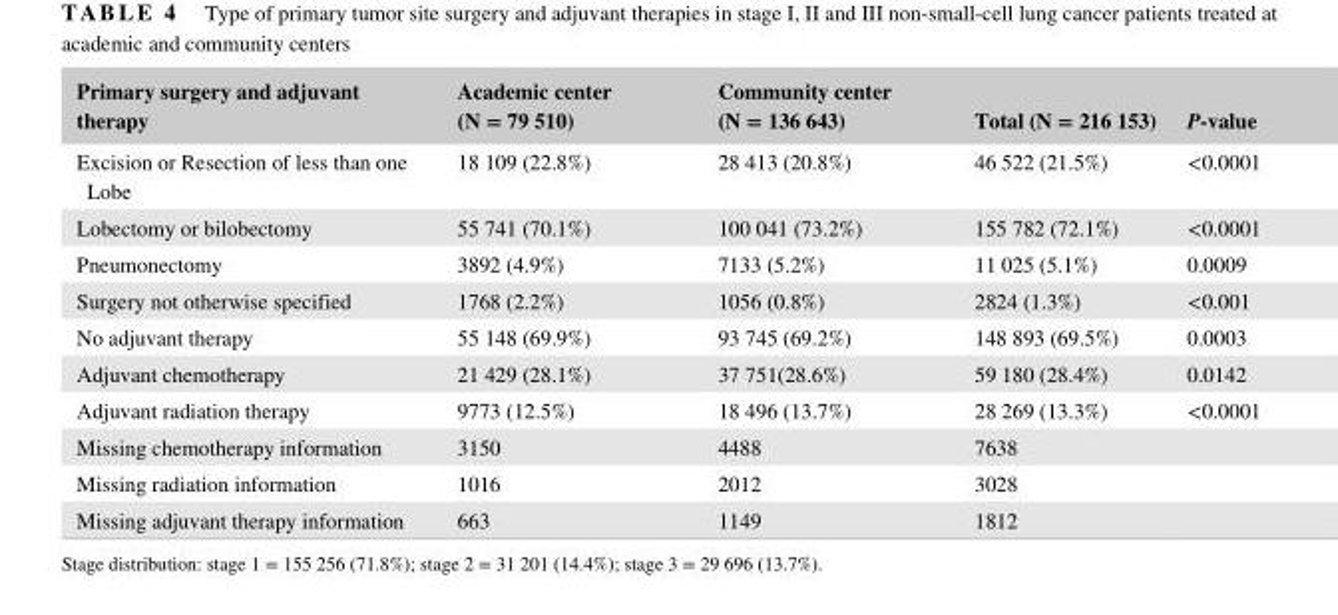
<table><thead><tr><td>Primary surgery and adjuvant therapy</td><td>Academic center (N = 79 510)</td><td>Community center (N = 136 643)</td><td>Total (N = 216 153)</td><td>P- value</td></tr></thead><tbody><tr><td>Excision or Resection of less than one Lobe</td><td>18 109 (22.8%)</td><td>28 413 (20.8%)</td><td>46 522 (21.5%)</td><td>&lt;0.0001</td></tr><tr><td>Lobectomy or bilobectomy</td><td>55 741 (70.1%)</td><td>100 041 (73.2%)</td><td>155 782 (72.1%)</td><td>&lt;0.0001</td></tr><tr><td>Pneumonectomy</td><td>3892 (4.9%)</td><td>7133 (5.2%)</td><td>11 025 (5.1%)</td><td>0.0009</td></tr><tr><td>Surgery not otherwise specified</td><td>1768 (2.2%)</td><td>1056 (0.8%)</td><td>2824 (1.3%)</td><td>&lt;0.001</td></tr><tr><td>No adjuvant therapy</td><td>55 148 (69.9%)</td><td>93 745 (69.2%)</td><td>148 893 (69.5%)</td><td>0.0003</td></tr><tr><td>Adjuvant chemotherapy</td><td>21 429 (28.1%)</td><td>37 751(28.6%)</td><td>59 180 (28.4%)</td><td>0.0142</td></tr><tr><td>Adjuvant radiation therapy</td><td>9773 (12.5%)</td><td>18 496 (13.7%)</td><td>28 269 (13.3%)</td><td>&lt;0.0001</td></tr><tr><td>Missing chemotherapy information</td><td>3150</td><td>4488</td><td>7638</td><td></td></tr><tr><td>Missing radiation information</td><td>1016</td><td>2012</td><td>3028</td><td></td></tr><tr><td>Missing adjuvant therapy information</td><td>663</td><td>1149</td><td>1812</td><td></td></tr></tbody></table>